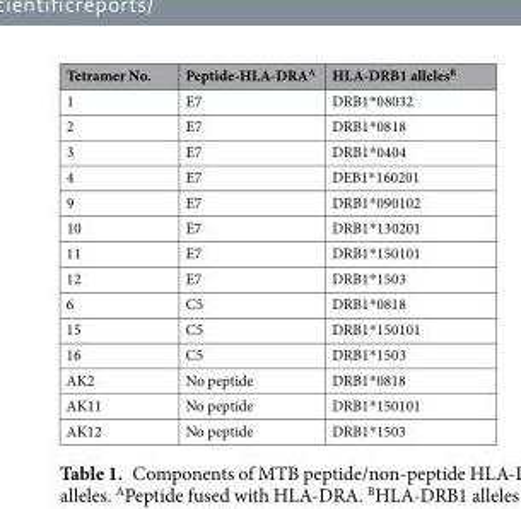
<table><thead><tr><td>Tetramer No.</td><td>Peptide-HLA-DRA<sup>A</sup></td><td>HLA-DRB1 alleles<sup>B</sup></td></tr></thead><tbody><tr><td>1</td><td>E7</td><td>DRB1*08032</td></tr><tr><td>2</td><td>E7</td><td>DRB1*0818</td></tr><tr><td>3</td><td>E7</td><td>DRB1*0404</td></tr><tr><td>4</td><td>E7</td><td>DEB1*160201</td></tr><tr><td>9</td><td>E7</td><td>DRB1*090102</td></tr><tr><td>10</td><td>E7</td><td>DRB1*130201</td></tr><tr><td>11</td><td>E7</td><td>DRB1*150101</td></tr><tr><td>12</td><td>E7</td><td>DRB1*1503</td></tr><tr><td>6</td><td>C5</td><td>DRB1*0818</td></tr><tr><td>15</td><td>C5</td><td>DRB1*150101</td></tr><tr><td>16</td><td>C5</td><td>DRB1*1503</td></tr><tr><td>AK2</td><td>No peptide</td><td>DRB1*0818</td></tr><tr><td>AK11</td><td>No peptide</td><td>DRB1*150101</td></tr><tr><td>AK12</td><td>No peptide</td><td>DRB1*1503</td></tr></tbody></table>